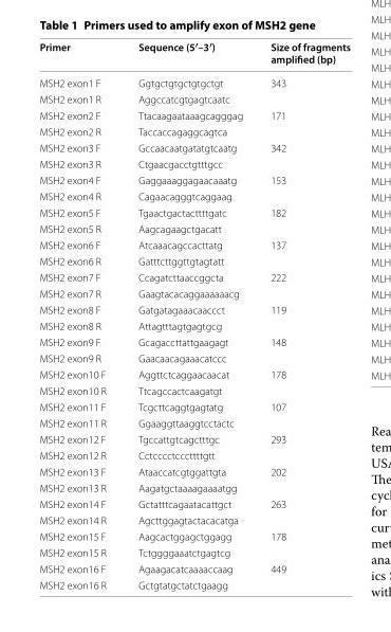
<table><thead><tr><td>Primer</td><td>Sequence (5′–3′)</td><td>Size of fragments amplified (bp)</td></tr></thead><tbody><tr><td>MSH2 exon1 F</td><td>Ggtgctgtgctgtgctgt</td><td>343</td></tr><tr><td>MSH2 exon1 R</td><td>Aggccatcgtgagtcaatc</td><td></td></tr><tr><td>MSH2 exon2 F</td><td>Ttacaagaataaagcagggag</td><td>171</td></tr><tr><td>MSH2 exon2 R</td><td>Taccaccagaggcagtca</td><td></td></tr><tr><td>MSH2 exon3 F</td><td>Gccaacaatgatatgtcaatg</td><td>342</td></tr><tr><td>MSH2 exon3 R</td><td>Ctgaacgacctgtttgcc</td><td></td></tr><tr><td>MSH2 exon4 F</td><td>Gaggaaaggagaacaaatg</td><td>153</td></tr><tr><td>MSH2 exon4 R</td><td>Cagaacagggtcaggaag</td><td></td></tr><tr><td>MSH2 exon5 F</td><td>Tgaactgactacttttgatc</td><td>182</td></tr><tr><td>MSH2 exon5 R</td><td>Aagcagaagctgacatt</td><td></td></tr><tr><td>MSH2 exon6 F</td><td>Atcaaacagccacttatg</td><td>137</td></tr><tr><td>MSH2 exon6 R</td><td>Gatttcttggttgtagtatt</td><td></td></tr><tr><td>MSH2 exon7 F</td><td>Ccagatcttaaccggcta</td><td>222</td></tr><tr><td>MSH2 exon7 R</td><td>Gaagtacacaggaaaaaacg</td><td></td></tr><tr><td>MSH2 exon8 F</td><td>Gatgatagaaacaaccct</td><td>119</td></tr><tr><td>MSH2 exon8 R</td><td>Attagtttagtgagtgcg</td><td></td></tr><tr><td>MSH2 exon9 F</td><td>Gcagaccttattgaagagt</td><td>148</td></tr><tr><td>MSH2 exon9 R</td><td>Gaacaacagaaacatccc</td><td></td></tr><tr><td>MSH2 exon10 F</td><td>Aggttctcaggaacaacat</td><td>178</td></tr><tr><td>MSH2 exon10 R</td><td>Ttcagccactcaagatgt</td><td></td></tr><tr><td>MSH2 exon11 F</td><td>Tcgcttcaggtgagtatg</td><td>107</td></tr><tr><td>MSH2 exon11 R</td><td>Ggaaggttaaggtcctactc</td><td></td></tr><tr><td>MSH2 exon12 F</td><td>Tgccattgtcagctttgc</td><td>293</td></tr><tr><td>MSH2 exon12 R</td><td>Cctcccctcccttttgtt</td><td></td></tr><tr><td>MSH2 exon13 F</td><td>Ataaccatcgtggattgta</td><td>202</td></tr><tr><td>MSH2 exon13 R</td><td>Aagatgctaaaagaaaatgg</td><td></td></tr><tr><td>MSH2 exon14 F</td><td>Gctatttcagaatacattgct</td><td>263</td></tr><tr><td>MSH2 exon14 R</td><td>Agcttggagtactacacatga</td><td></td></tr><tr><td>MSH2 exon15 F</td><td>Aagcactggagctggagg</td><td>178</td></tr><tr><td>MSH2 exon15 R</td><td>Tctggggaaatctgagtcg</td><td></td></tr><tr><td>MSH2 exon16 F</td><td>Agaagacatcaaaaccaag</td><td>449</td></tr><tr><td>MSH2 exon16 R</td><td>Gctgtatgctatctgaagg</td><td></td></tr></tbody></table>